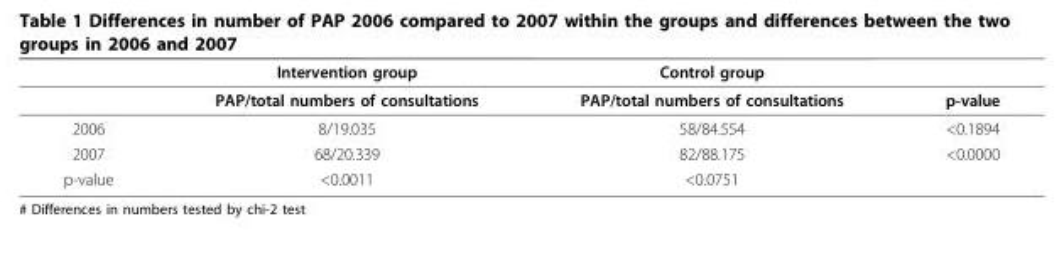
<table><thead><tr><td></td><td>Intervention group</td><td>Control group</td><td></td></tr></thead><tbody><tr><td></td><td>PAP/total numbers of consultations</td><td>PAP/total numbers of consultations</td><td>p-value</td></tr><tr><td>2006</td><td>8/19.035</td><td>58/84.554</td><td>&lt;0.1894</td></tr><tr><td>2007</td><td>68/20.339</td><td>82/88.175</td><td>&lt;0.0000</td></tr><tr><td>p-value</td><td>&lt;0.0011</td><td>&lt;0.0751</td><td></td></tr></tbody></table>